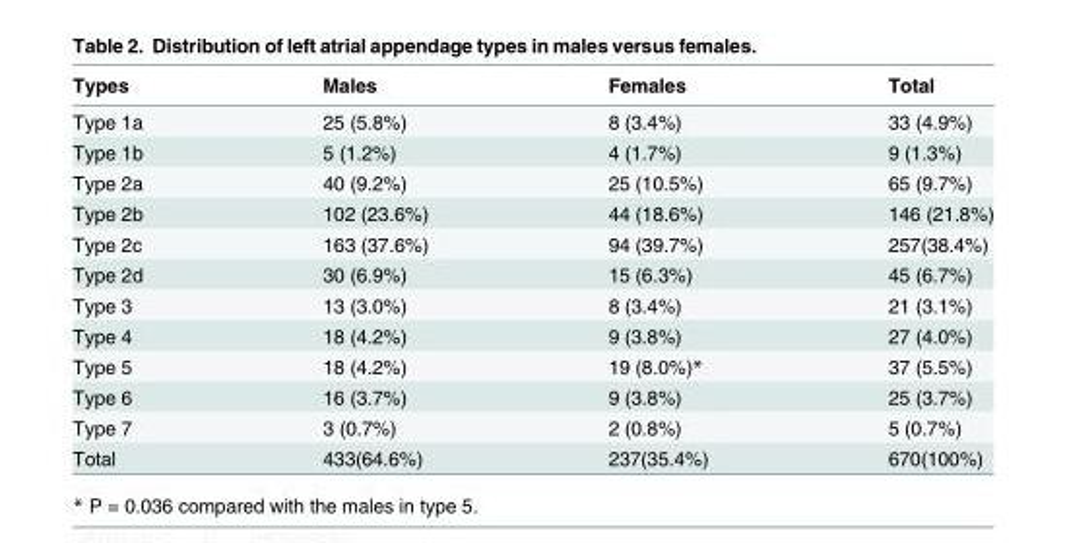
<table><thead><tr><td>Types</td><td>Males</td><td>Females</td><td>Total</td></tr></thead><tbody><tr><td>Type 1a</td><td>25 (5.8%)</td><td>8 (3.4%)</td><td>33 (4.9%)</td></tr><tr><td>Type 1b</td><td>5 (1.2%)</td><td>4 (1.7%)</td><td>9 (1.3%)</td></tr><tr><td>Type 2a</td><td>40 (9.2%)</td><td>25 (10.5%)</td><td>65 (9.7%)</td></tr><tr><td>Type 2b</td><td>102 (23.6%)</td><td>44 (18.6%)</td><td>146 (21.8%)</td></tr><tr><td>Type 2c</td><td>163 (37.6%)</td><td>94 (39.7%)</td><td>257(38.4%)</td></tr><tr><td>Type 2d</td><td>30 (6.9%)</td><td>15 (6.3%)</td><td>45 (6.7%)</td></tr><tr><td>Type 3</td><td>13 (3.0%)</td><td>8 (3.4%)</td><td>21 (3.1%)</td></tr><tr><td>Type 4</td><td>18 (4.2%)</td><td>9 (3.8%)</td><td>27 (4.0%)</td></tr><tr><td>Type 5</td><td>18 (4.2%)</td><td>19 (8.0%)*</td><td>37 (5.5%)</td></tr><tr><td>Type 6</td><td>16 (3.7%)</td><td>9 (3.8%)</td><td>25 (3.7%)</td></tr><tr><td>Type 7</td><td>3 (0.7%)</td><td>2 (0.8%)</td><td>5 (0.7%)</td></tr><tr><td>Total</td><td>433(64.6%)</td><td>237(35.4%)</td><td>670(100%)</td></tr></tbody></table>